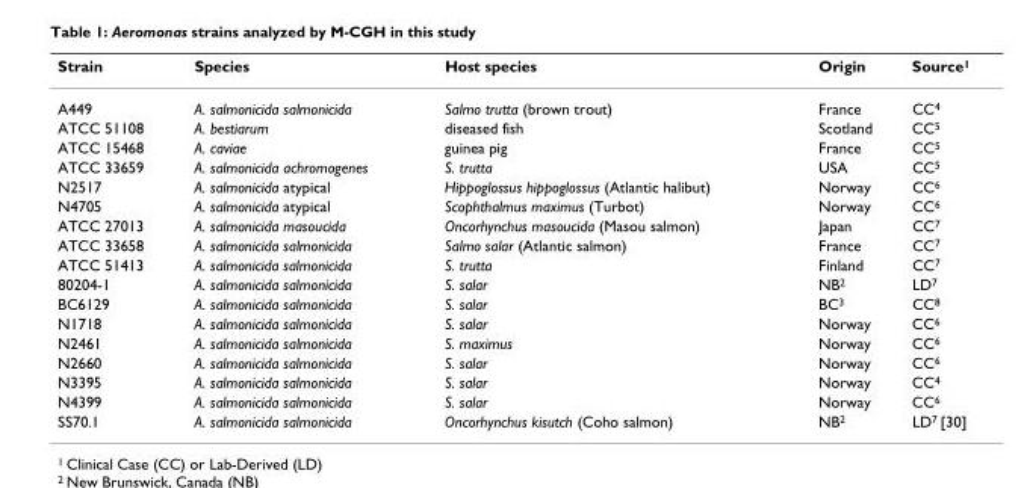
<table><thead><tr><td>Strain</td><td>Species</td><td>Host species</td><td>Origin</td><td>Source1</td></tr></thead><tbody><tr><td>A449</td><td>A. salmonicida salmonicida</td><td>Salmo trutta (brown trout)</td><td>France</td><td>CC4</td></tr><tr><td>ATCC 51108</td><td>A. bestiarum</td><td>diseased fish</td><td>Scotland</td><td>CC5</td></tr><tr><td>ATCC 15468</td><td>A. caviae</td><td>guinea pig</td><td>France</td><td>CC5</td></tr><tr><td>ATCC 33659</td><td>A. salmonicida achromogenes</td><td>S. trutta</td><td>USA</td><td>CC5</td></tr><tr><td>N2517</td><td>A. salmonicida atypical</td><td>Hippoglossus hippoglossus (Atlantic halibut)</td><td>Norway</td><td>CC6</td></tr><tr><td>N4705</td><td>A. salmonicida atypical</td><td>Scophthalmus maximus (Turbot)</td><td>Norway</td><td>CC6</td></tr><tr><td>ATCC 27013</td><td>A. salmonicida masoucida</td><td>Oncorhynchus masoucida (Masou salmon)</td><td>Japan</td><td>CC7</td></tr><tr><td>ATCC 33658</td><td>A. salmonicida salmonicida</td><td>Salmo salar (Atlantic salmon)</td><td>France</td><td>CC7</td></tr><tr><td>ATCC 51413</td><td>A. salmonicida salmonicida</td><td>S. trutta</td><td>Finland</td><td>CC7</td></tr><tr><td>80204-1</td><td>A. salmonicida salmonicida</td><td>S. salar</td><td>NB2</td><td>LD7</td></tr><tr><td>BC6129</td><td>A. salmonicida salmonicida</td><td>S. salar</td><td>BC3</td><td>CC8</td></tr><tr><td>N1718</td><td>A. salmonicida salmonicida</td><td>S. salar</td><td>Norway</td><td>CC6</td></tr><tr><td>N2461</td><td>A. salmonicida salmonicida</td><td>S. maximus</td><td>Norway</td><td>CC6</td></tr><tr><td>N2660</td><td>A. salmonicida salmonicida</td><td>S. salar</td><td>Norway</td><td>CC6</td></tr><tr><td>N3395</td><td>A. salmonicida salmonicida</td><td>S. salar</td><td>Norway</td><td>CC4</td></tr><tr><td>N4399</td><td>A. salmonicida salmonicida</td><td>S. salar</td><td>Norway</td><td>CC6</td></tr><tr><td>SS70.1</td><td>A. salmonicida salmonicida</td><td>Oncorhynchus kisutch (Coho salmon)</td><td>NB2</td><td>LD7 [30]</td></tr></tbody></table>